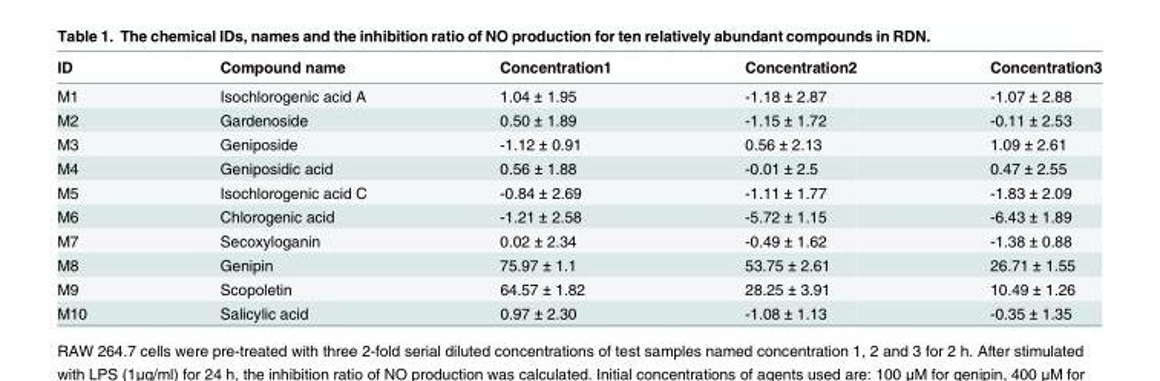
<table><thead><tr><td>ID</td><td>Compound name</td><td>Concentration1</td><td>Concentration2</td><td>Concentration3</td></tr></thead><tbody><tr><td>M1</td><td>Isochlorogenic acid A</td><td>1.04 ± 1.95</td><td>-1.18 ± 2.87</td><td>-1.07 ± 2.88</td></tr><tr><td>M2</td><td>Gardenoside</td><td>0.50 ± 1.89</td><td>-1.15 ± 1.72</td><td>-0.11 ± 2.53</td></tr><tr><td>M3</td><td>Geniposide</td><td>-1.12 ± 0.91</td><td>0.56 ± 2.13</td><td>1.09 ± 2.61</td></tr><tr><td>M4</td><td>Geniposidic acid</td><td>0.56 ± 1.88</td><td>-0.01 ± 2.5</td><td>0.47 ± 2.55</td></tr><tr><td>M5</td><td>Isochlorogenic acid C</td><td>-0.84 ± 2.69</td><td>-1.11 ± 1.77</td><td>-1.83 ± 2.09</td></tr><tr><td>M6</td><td>Chlorogenic acid</td><td>-1.21 ± 2.58</td><td>-5.72 ± 1.15</td><td>-6.43 ± 1.89</td></tr><tr><td>M7</td><td>Secoxyloganin</td><td>0.02 ± 2.34</td><td>-0.49 ± 1.62</td><td>-1.38 ± 0.88</td></tr><tr><td>M8</td><td>Genipin</td><td>75.97 ± 1.1</td><td>53.75 ± 2.61</td><td>26.71 ± 1.55</td></tr><tr><td>M9</td><td>Scopoletin</td><td>64.57 ± 1.82</td><td>28.25 ± 3.91</td><td>10.49 ± 1.26</td></tr><tr><td>M10</td><td>Salicylic acid</td><td>0.97 ± 2.30</td><td>-1.08 ± 1.13</td><td>-0.35 ± 1.35</td></tr></tbody></table>